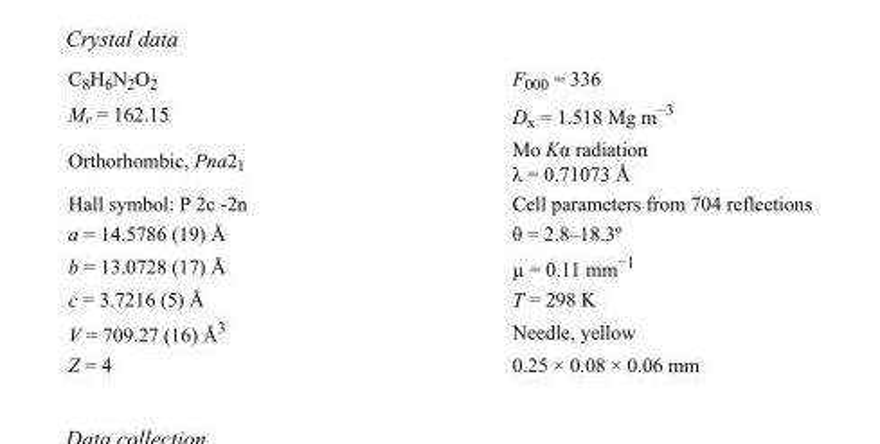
<table><tbody><tr><td>C<sub>8</sub>H<sub>6</sub>N<sub>2</sub>O<sub>2</sub></td><td>F<sub>000</sub> = 336</td></tr><tr><td>M<sub>r</sub> = 162.15</td><td>D<sub>x</sub> = 1.518 Mg m<sup>−3</sup></td></tr><tr><td>Orthorhombic, Pna2<sub>1</sub></td><td>Mo Kα radiation λ = 0.71073 Å</td></tr><tr><td>Hall symbol: P 2c -2n</td><td>Cell parameters from 704 reflections</td></tr><tr><td>a = 14.5786 (19) Å</td><td>θ = 2.8–18.3º</td></tr><tr><td>b = 13.0728 (17) Å</td><td>µ = 0.11 mm<sup>−1</sup></td></tr><tr><td>c = 3.7216 (5) Å</td><td>T = 298 K</td></tr><tr><td>V = 709.27 (16) Å<sup>3</sup></td><td>Needle, yellow</td></tr><tr><td>Z = 4</td><td>0.25 × 0.08 × 0.06 mm</td></tr></tbody></table>